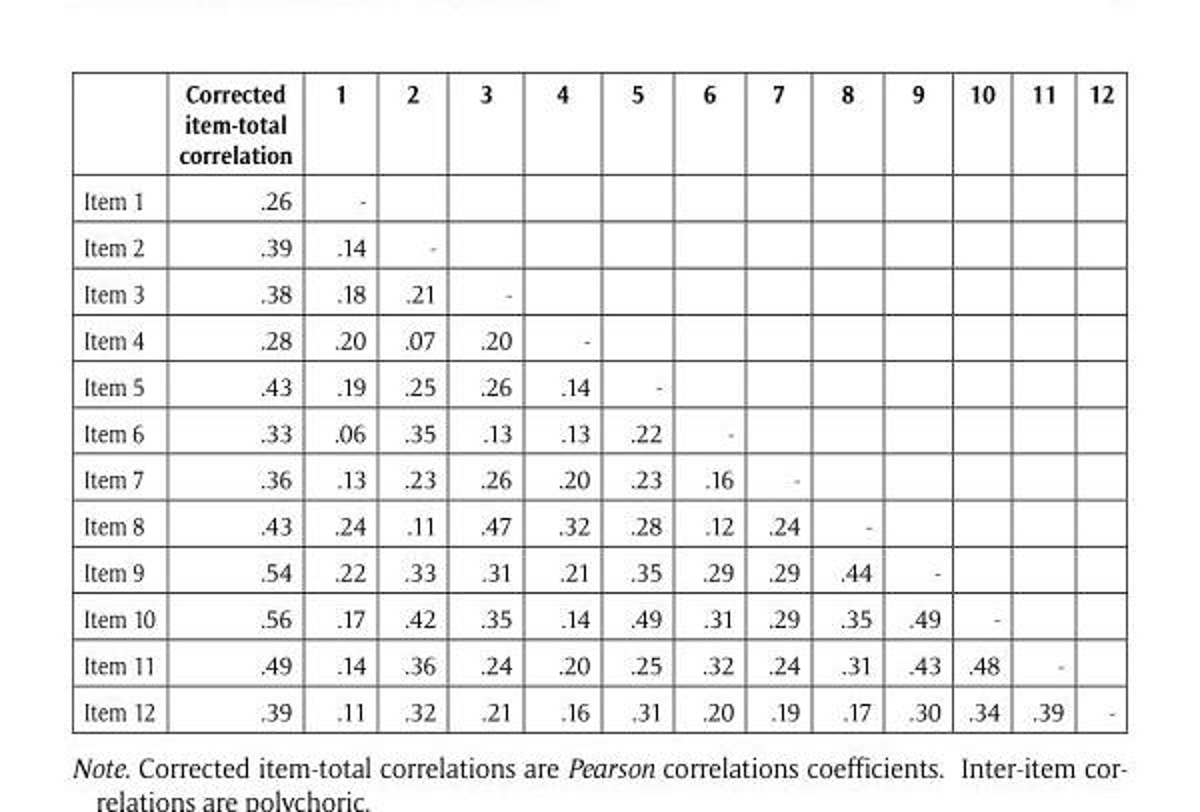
<table><thead><tr><td></td><td>Corrected item-total correlation</td><td>1</td><td>2</td><td>3</td><td>4</td><td>5</td><td>6</td><td>7</td><td>8</td><td>9</td><td>10</td><td>11</td><td>12</td></tr></thead><tbody><tr><td>Item 1</td><td>.26</td><td>-</td><td></td><td></td><td></td><td></td><td></td><td></td><td></td><td></td><td></td><td></td><td></td></tr><tr><td>Item 2</td><td>.39</td><td>.14</td><td>-</td><td></td><td></td><td></td><td></td><td></td><td></td><td></td><td></td><td></td><td></td></tr><tr><td>Item 3</td><td>.38</td><td>.18</td><td>.21</td><td>-</td><td></td><td></td><td></td><td></td><td></td><td></td><td></td><td></td><td></td></tr><tr><td>Item 4</td><td>.28</td><td>.20</td><td>.07</td><td>.20</td><td>-</td><td></td><td></td><td></td><td></td><td></td><td></td><td></td><td></td></tr><tr><td>Item 5</td><td>.43</td><td>.19</td><td>.25</td><td>.26</td><td>.14</td><td>-</td><td></td><td></td><td></td><td></td><td></td><td></td><td></td></tr><tr><td>Item 6</td><td>.33</td><td>.06</td><td>.35</td><td>.13</td><td>.13</td><td>.22</td><td>-</td><td></td><td></td><td></td><td></td><td></td><td></td></tr><tr><td>Item 7</td><td>.36</td><td>.13</td><td>.23</td><td>.26</td><td>.20</td><td>.23</td><td>.16</td><td>-</td><td></td><td></td><td></td><td></td><td></td></tr><tr><td>Item 8</td><td>.43</td><td>.24</td><td>.11</td><td>.47</td><td>.32</td><td>.28</td><td>.12</td><td>.24</td><td>-</td><td></td><td></td><td></td><td></td></tr><tr><td>Item 9</td><td>.54</td><td>.22</td><td>.33</td><td>.31</td><td>.21</td><td>.35</td><td>.29</td><td>.29</td><td>.44</td><td>-</td><td></td><td></td><td></td></tr><tr><td>Item 10</td><td>.56</td><td>.17</td><td>.42</td><td>.35</td><td>.14</td><td>.49</td><td>.31</td><td>.29</td><td>.35</td><td>.49</td><td>-</td><td></td><td></td></tr><tr><td>Item 11</td><td>.49</td><td>.14</td><td>.36</td><td>.24</td><td>.20</td><td>.25</td><td>.32</td><td>.24</td><td>.31</td><td>.43</td><td>.48</td><td>-</td><td></td></tr><tr><td>Item 12</td><td>.39</td><td>.11</td><td>.32</td><td>.21</td><td>.16</td><td>.31</td><td>.20</td><td>.19</td><td>.17</td><td>.30</td><td>.34</td><td>.39</td><td>-</td></tr></tbody></table>